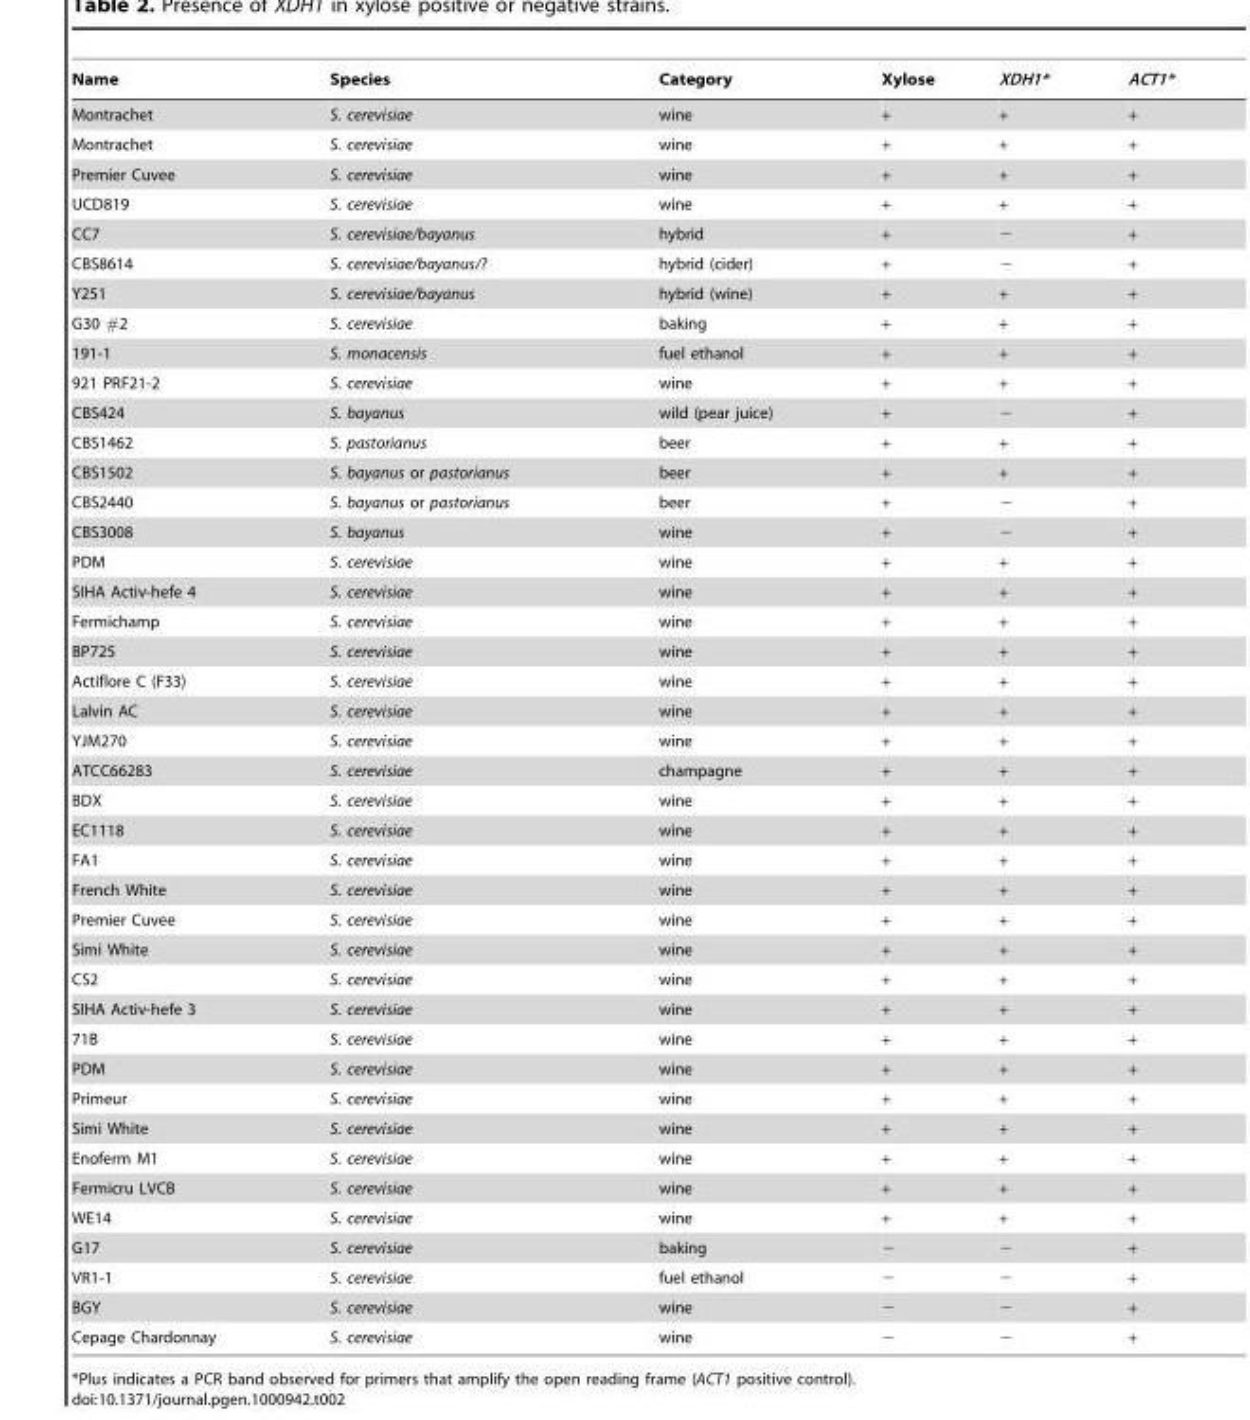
<table><thead><tr><td>Name</td><td>Species</td><td>Category</td><td>Xylose</td><td>XDH1*</td><td>ACT1*</td></tr></thead><tbody><tr><td>Montrachet</td><td>S. cerevisiae</td><td>wine</td><td>+</td><td>+</td><td>+</td></tr><tr><td>Montrachet</td><td>S. cerevisiae</td><td>wine</td><td>+</td><td>+</td><td>+</td></tr><tr><td>Premier Cuvee</td><td>S. cerevisiae</td><td>wine</td><td>+</td><td>+</td><td>+</td></tr><tr><td>UCD819</td><td>S. cerevisiae</td><td>wine</td><td>+</td><td>+</td><td>+</td></tr><tr><td>CC7</td><td>S. cerevisiae/bayanus</td><td>hybrid</td><td>+</td><td>−</td><td>+</td></tr><tr><td>CBS8614</td><td>S. cerevisiae/bayanus/?</td><td>hybrid (cider)</td><td>+</td><td>−</td><td>+</td></tr><tr><td>Y251</td><td>S. cerevisiae/bayanus</td><td>hybrid (wine)</td><td>+</td><td>+</td><td>+</td></tr><tr><td>G30 #2</td><td>S. cerevisiae</td><td>baking</td><td>+</td><td>+</td><td>+</td></tr><tr><td>191-1</td><td>S. monacensis</td><td>fuel ethanol</td><td>+</td><td>+</td><td>+</td></tr><tr><td>921 PRF21-2</td><td>S. cerevisiae</td><td>wine</td><td>+</td><td>+</td><td>+</td></tr><tr><td>CBS424</td><td>S. bayanus</td><td>wild (pear juice)</td><td>+</td><td>−</td><td>+</td></tr><tr><td>CBS1462</td><td>S. pastorianus</td><td>beer</td><td>+</td><td>+</td><td>+</td></tr><tr><td>CBS1502</td><td>S. bayanus or pastorianus</td><td>beer</td><td>+</td><td>+</td><td>+</td></tr><tr><td>CBS2440</td><td>S. bayanus or pastorianus</td><td>beer</td><td>+</td><td>−</td><td>+</td></tr><tr><td>CBS3008</td><td>S. bayanus</td><td>wine</td><td>+</td><td>−</td><td>+</td></tr><tr><td>PDM</td><td>S. cerevisiae</td><td>wine</td><td>+</td><td>+</td><td>+</td></tr><tr><td>SIHA Activ-hefe 4</td><td>S. cerevisiae</td><td>wine</td><td>+</td><td>+</td><td>+</td></tr><tr><td>Fermichamp</td><td>S. cerevisiae</td><td>wine</td><td>+</td><td>+</td><td>+</td></tr><tr><td>BP725</td><td>S. cerevisiae</td><td>wine</td><td>+</td><td>+</td><td>+</td></tr><tr><td>Actiflore C (F33)</td><td>S. cerevisiae</td><td>wine</td><td>+</td><td>+</td><td>+</td></tr><tr><td>Lalvin AC</td><td>S. cerevisiae</td><td>wine</td><td>+</td><td>+</td><td>+</td></tr><tr><td>YJM270</td><td>S. cerevisiae</td><td>wine</td><td>+</td><td>+</td><td>+</td></tr><tr><td>ATCC66283</td><td>S. cerevisiae</td><td>champagne</td><td>+</td><td>+</td><td>+</td></tr><tr><td>BDX</td><td>S. cerevisiae</td><td>wine</td><td>+</td><td>+</td><td>+</td></tr><tr><td>EC1118</td><td>S. cerevisiae</td><td>wine</td><td>+</td><td>+</td><td>+</td></tr><tr><td>FA1</td><td>S. cerevisiae</td><td>wine</td><td>+</td><td>+</td><td>+</td></tr><tr><td>French White</td><td>S. cerevisiae</td><td>wine</td><td>+</td><td>+</td><td>+</td></tr><tr><td>Premier Cuvee</td><td>S. cerevisiae</td><td>wine</td><td>+</td><td>+</td><td>+</td></tr><tr><td>Simi White</td><td>S. cerevisiae</td><td>wine</td><td>+</td><td>+</td><td>+</td></tr><tr><td>CS2</td><td>S. cerevisiae</td><td>wine</td><td>+</td><td>+</td><td>+</td></tr><tr><td>SIHA Activ-hefe 3</td><td>S. cerevisiae</td><td>wine</td><td>+</td><td>+</td><td>+</td></tr><tr><td>71B</td><td>S. cerevisiae</td><td>wine</td><td>+</td><td>+</td><td>+</td></tr><tr><td>PDM</td><td>S. cerevisiae</td><td>wine</td><td>+</td><td>+</td><td>+</td></tr><tr><td>Primeur</td><td>S. cerevisiae</td><td>wine</td><td>+</td><td>+</td><td>+</td></tr><tr><td>Simi White</td><td>S. cerevisiae</td><td>wine</td><td>+</td><td>+</td><td>+</td></tr><tr><td>Enoferm M1</td><td>S. cerevisiae</td><td>wine</td><td>+</td><td>+</td><td>+</td></tr><tr><td>Fermicru LVCB</td><td>S. cerevisiae</td><td>wine</td><td>+</td><td>+</td><td>+</td></tr><tr><td>WE14</td><td>S. cerevisiae</td><td>wine</td><td>+</td><td>+</td><td>+</td></tr><tr><td>G17</td><td>S. cerevisiae</td><td>baking</td><td>−</td><td>−</td><td>+</td></tr><tr><td>VR1-1</td><td>S. cerevisiae</td><td>fuel ethanol</td><td>−</td><td>−</td><td>+</td></tr><tr><td>BGY</td><td>S. cerevisiae</td><td>wine</td><td>−</td><td>−</td><td>+</td></tr><tr><td>Cepage Chardonnay</td><td>S. cerevisiae</td><td>wine</td><td>−</td><td>−</td><td>+</td></tr></tbody></table>